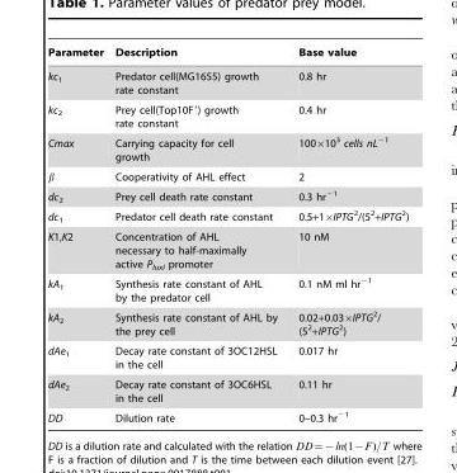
<table><thead><tr><td>Parameter</td><td>Description</td><td>Base value</td></tr></thead><tbody><tr><td>kc<sub>1</sub></td><td>Predator cell(MG1655) growth rate constant</td><td>0.8 hr</td></tr><tr><td>kc<sub>2</sub></td><td>Prey cell(Top10F′) growth rate constant</td><td>0.4 hr</td></tr><tr><td>Cmax</td><td>Carrying capacity for cell growth</td><td>100×10<sup>3</sup> cells nL<sup>−1</sup></td></tr><tr><td>β</td><td>Cooperativity of AHL effect</td><td>2</td></tr><tr><td>dc<sub>2</sub></td><td>Prey cell death rate constant</td><td>0.3 hr<sup>−1</sup></td></tr><tr><td>dc<sub>1</sub></td><td>Predator cell death rate constant</td><td>0.5+1×IPTG<sup>2</sup>/(5<sup>2</sup>+IPTG<sup>2</sup>)</td></tr><tr><td>K1,K2</td><td>Concentration of AHL necessary to half-maximally active P<sub>luxI</sub> promoter</td><td>10 nM</td></tr><tr><td>kA<sub>1</sub></td><td>Synthesis rate constant of AHL by the predator cell</td><td>0.1 nM ml hr<sup>−1</sup></td></tr><tr><td>kA<sub>2</sub></td><td>Synthesis rate constant of AHL by the prey cell</td><td>0.02+0.03×IPTG<sup>2</sup>/ (5<sup>2</sup>+IPTG<sup>2</sup>)</td></tr><tr><td>dAe<sub>1</sub></td><td>Decay rate constant of 3OC12HSL in the cell</td><td>0.017 hr</td></tr><tr><td>dAe<sub>2</sub></td><td>Decay rate constant of 3OC6HSL in the cell</td><td>0.11 hr</td></tr><tr><td>DD</td><td>Dilution rate</td><td>0–0.3 hr<sup>−1</sup></td></tr></tbody></table>